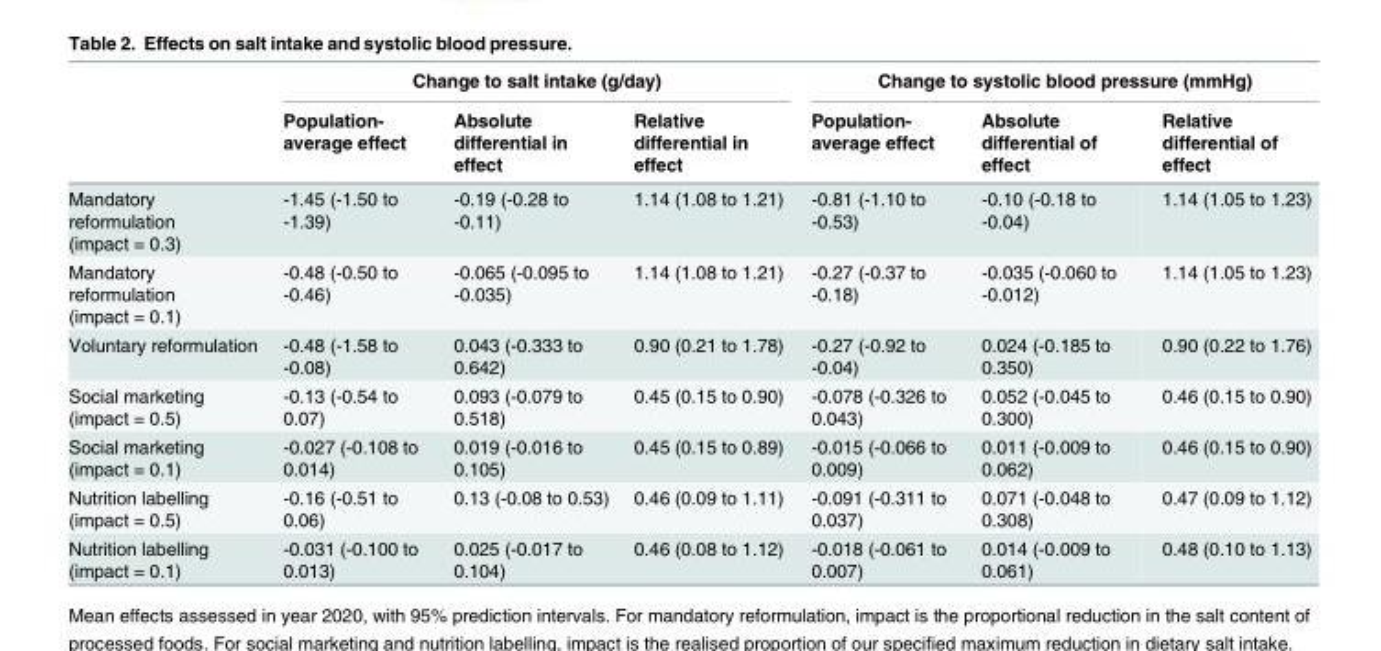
<table><thead><tr><td rowspan="2"></td><td colspan="3">Change to salt intake (g/day)</td><td colspan="3">Change to systolic blood pressure (mmHg)</td></tr><tr><td>Population- average effect</td><td>Absolute differential in effect</td><td>Relative differential in effect</td><td>Population- average effect</td><td>Absolute differential of effect</td><td>Relative differential of effect</td></tr></thead><tbody><tr><td>Mandatory reformulation (impact = 0.3)</td><td>-1.45 (-1.50 to -1.39)</td><td>-0.19 (-0.28 to -0.11)</td><td>1.14 (1.08 to 1.21)</td><td>-0.81 (-1.10 to -0.53)</td><td>-0.10 (-0.18 to -0.04)</td><td>1.14 (1.05 to 1.23)</td></tr><tr><td>Mandatory reformulation (impact = 0.1)</td><td>-0.48 (-0.50 to -0.46)</td><td>-0.065 (-0.095 to -0.035)</td><td>1.14 (1.08 to 1.21)</td><td>-0.27 (-0.37 to -0.18)</td><td>-0.035 (-0.060 to -0.012)</td><td>1.14 (1.05 to 1.23)</td></tr><tr><td>Voluntary reformulation</td><td>-0.48 (-1.58 to -0.08)</td><td>0.043 (-0.333 to 0.642)</td><td>0.90 (0.21 to 1.78)</td><td>-0.27 (-0.92 to -0.04)</td><td>0.024 (-0.185 to 0.350)</td><td>0.90 (0.22 to 1.76)</td></tr><tr><td>Social marketing (impact = 0.5)</td><td>-0.13 (-0.54 to 0.07)</td><td>0.093 (-0.079 to 0.518)</td><td>0.45 (0.15 to 0.90)</td><td>-0.078 (-0.326 to 0.043)</td><td>0.052 (-0.045 to 0.300)</td><td>0.46 (0.15 to 0.90)</td></tr><tr><td>Social marketing (impact = 0.1)</td><td>-0.027 (-0.108 to 0.014)</td><td>0.019 (-0.016 to 0.105)</td><td>0.45 (0.15 to 0.89)</td><td>-0.015 (-0.066 to 0.009)</td><td>0.011 (-0.009 to 0.062)</td><td>0.46 (0.15 to 0.90)</td></tr><tr><td>Nutrition labelling (impact = 0.5)</td><td>-0.16 (-0.51 to 0.06)</td><td>0.13 (-0.08 to 0.53)</td><td>0.46 (0.09 to 1.11)</td><td>-0.091 (-0.311 to 0.037)</td><td>0.071 (-0.048 to 0.308)</td><td>0.47 (0.09 to 1.12)</td></tr><tr><td>Nutrition labelling (impact = 0.1)</td><td>-0.031 (-0.100 to 0.013)</td><td>0.025 (-0.017 to 0.104)</td><td>0.46 (0.08 to 1.12)</td><td>-0.018 (-0.061 to 0.007)</td><td>0.014 (-0.009 to 0.061)</td><td>0.48 (0.10 to 1.13)</td></tr></tbody></table>